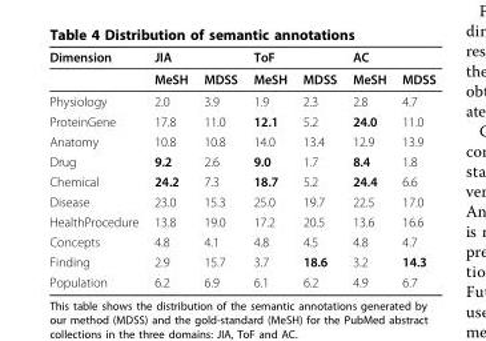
<table><thead><tr><td rowspan="2">Dimension</td><td colspan="2">JIA</td><td colspan="2">ToF</td><td colspan="2">AC</td></tr><tr><td>MeSH</td><td>MDSS</td><td>MeSH</td><td>MDSS</td><td>MeSH</td><td>MDSS</td></tr></thead><tbody><tr><td>Physiology</td><td>2.0</td><td>3.9</td><td>1.9</td><td>2.3</td><td>2.8</td><td>4.7</td></tr><tr><td>ProteinGene</td><td>17.8</td><td>11.0</td><td>12.1</td><td>5.2</td><td>24.0</td><td>11.0</td></tr><tr><td>Anatomy</td><td>10.8</td><td>10.8</td><td>14.0</td><td>13.4</td><td>12.9</td><td>13.9</td></tr><tr><td>Drug</td><td>9.2</td><td>2.6</td><td>9.0</td><td>1.7</td><td>8.4</td><td>1.8</td></tr><tr><td>Chemical</td><td>24.2</td><td>7.3</td><td>18.7</td><td>5.2</td><td>24.4</td><td>6.6</td></tr><tr><td>Disease</td><td>23.0</td><td>15.3</td><td>25.0</td><td>19.7</td><td>22.5</td><td>17.0</td></tr><tr><td>HealthProcedure</td><td>13.8</td><td>19.0</td><td>17.2</td><td>20.5</td><td>13.6</td><td>16.6</td></tr><tr><td>Concepts</td><td>4.8</td><td>4.1</td><td>4.8</td><td>4.5</td><td>4.8</td><td>4.7</td></tr><tr><td>Finding</td><td>2.9</td><td>15.7</td><td>3.7</td><td>18.6</td><td>3.2</td><td>14.3</td></tr><tr><td>Population</td><td>6.2</td><td>6.9</td><td>6.1</td><td>6.2</td><td>4.9</td><td>6.7</td></tr></tbody></table>